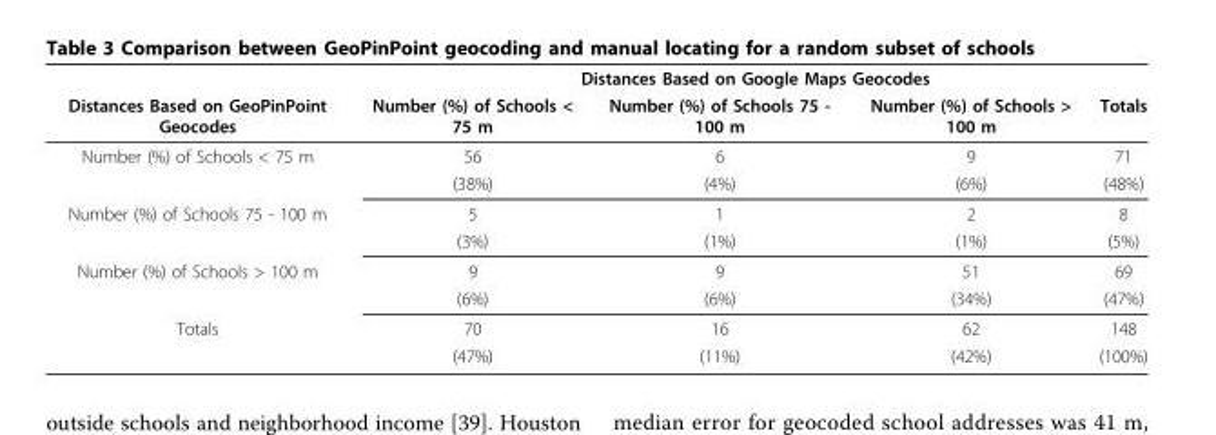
<table><thead><tr><td rowspan="2">Distances Based on GeoPinPoint Geocodes</td><td colspan="4">Distances Based on Google Maps Geocodes</td></tr><tr><td>Number (%) of Schools &lt; 75 m</td><td>Number (%) of Schools 75 - 100 m</td><td>Number (%) of Schools &gt; 100 m</td><td>Totals</td></tr></thead><tbody><tr><td rowspan="2">Number (%) of Schools &lt; 75 m</td><td>56</td><td>6</td><td>9</td><td>71</td></tr><tr><td>(38%)</td><td>(4%)</td><td>(6%)</td><td>(48%)</td></tr><tr><td rowspan="2">Number (%) of Schools 75 - 100 m</td><td>5</td><td>1</td><td>2</td><td>8</td></tr><tr><td>(3%)</td><td>(1%)</td><td>(1%)</td><td>(5%)</td></tr><tr><td rowspan="2">Number (%) of Schools &gt; 100 m</td><td>9</td><td>9</td><td>51</td><td>69</td></tr><tr><td>(6%)</td><td>(6%)</td><td>(34%)</td><td>(47%)</td></tr><tr><td rowspan="2">Totals</td><td>70</td><td>16</td><td>62</td><td>148</td></tr><tr><td>(47%)</td><td>(11%)</td><td>(42%)</td><td>(100%)</td></tr></tbody></table>